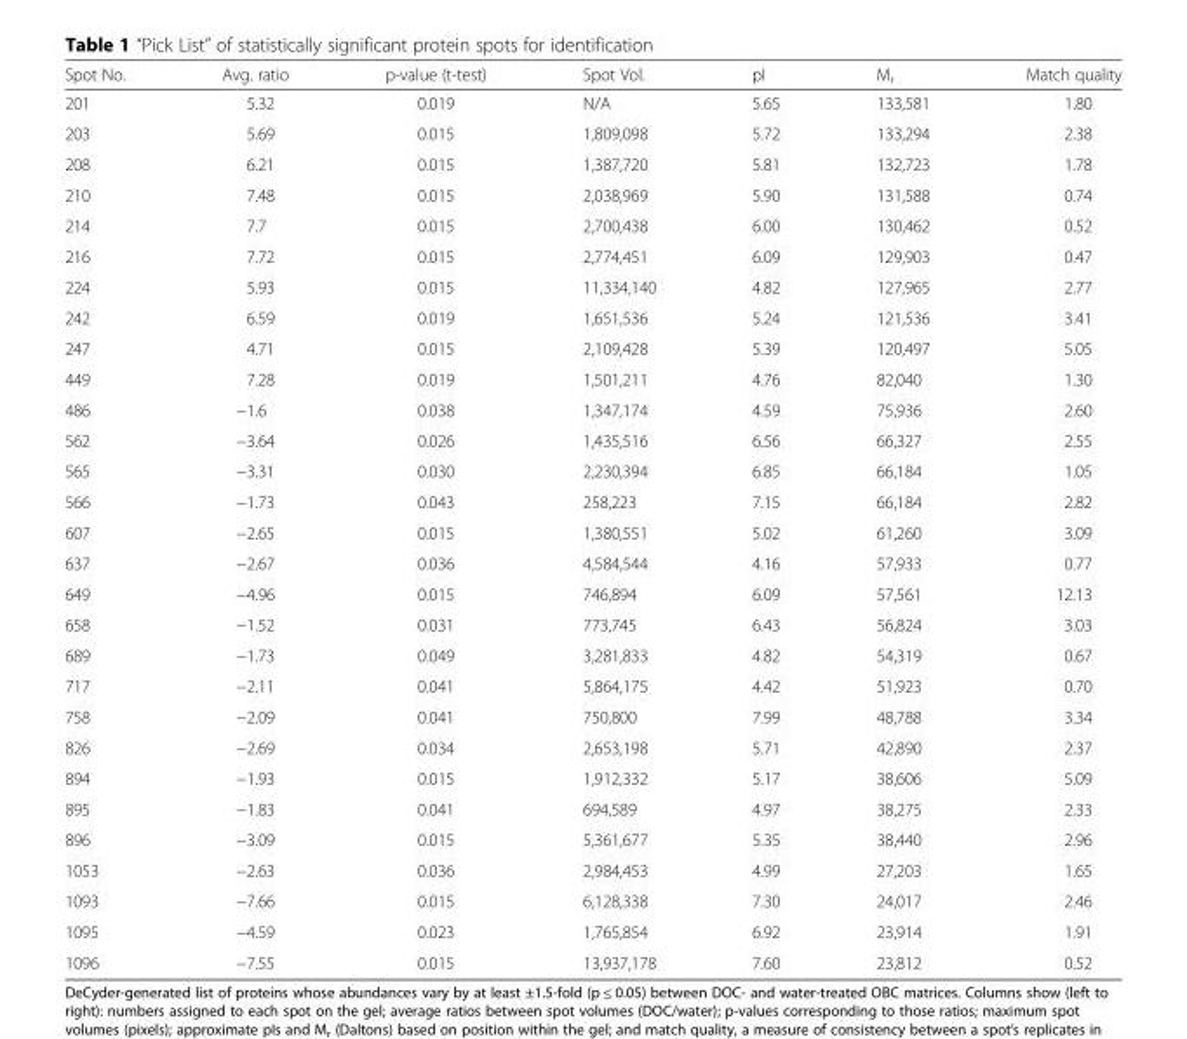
<table><thead><tr><td>Spot No.</td><td>Avg. ratio</td><td>p-value (t-test)</td><td>Spot Vol.</td><td>pI</td><td>M<sub>r</sub></td><td>Match quality</td></tr></thead><tbody><tr><td>201</td><td>5.32</td><td>0.019</td><td>N/A</td><td>5.65</td><td>133,581</td><td>1.80</td></tr><tr><td>203</td><td>5.69</td><td>0.015</td><td>1,809,098</td><td>5.72</td><td>133,294</td><td>2.38</td></tr><tr><td>208</td><td>6.21</td><td>0.015</td><td>1,387,720</td><td>5.81</td><td>132,723</td><td>1.78</td></tr><tr><td>210</td><td>7.48</td><td>0.015</td><td>2,038,969</td><td>5.90</td><td>131,588</td><td>0.74</td></tr><tr><td>214</td><td>7.7</td><td>0.015</td><td>2,700,438</td><td>6.00</td><td>130,462</td><td>0.52</td></tr><tr><td>216</td><td>7.72</td><td>0.015</td><td>2,774,451</td><td>6.09</td><td>129,903</td><td>0.47</td></tr><tr><td>224</td><td>5.93</td><td>0.015</td><td>11,334,140</td><td>4.82</td><td>127,965</td><td>2.77</td></tr><tr><td>242</td><td>6.59</td><td>0.019</td><td>1,651,536</td><td>5.24</td><td>121,536</td><td>3.41</td></tr><tr><td>247</td><td>4.71</td><td>0.015</td><td>2,109,428</td><td>5.39</td><td>120,497</td><td>5.05</td></tr><tr><td>449</td><td>7.28</td><td>0.019</td><td>1,501,211</td><td>4.76</td><td>82,040</td><td>1.30</td></tr><tr><td>486</td><td>−1.6</td><td>0.038</td><td>1,347,174</td><td>4.59</td><td>75,936</td><td>2.60</td></tr><tr><td>562</td><td>−3.64</td><td>0.026</td><td>1,435,516</td><td>6.56</td><td>66,327</td><td>2.55</td></tr><tr><td>565</td><td>−3.31</td><td>0.030</td><td>2,230,394</td><td>6.85</td><td>66,184</td><td>1.05</td></tr><tr><td>566</td><td>−1.73</td><td>0.043</td><td>258,223</td><td>7.15</td><td>66,184</td><td>2.82</td></tr><tr><td>607</td><td>−2.65</td><td>0.015</td><td>1,380,551</td><td>5.02</td><td>61,260</td><td>3.09</td></tr><tr><td>637</td><td>−2.67</td><td>0.036</td><td>4,584,544</td><td>4.16</td><td>57,933</td><td>0.77</td></tr><tr><td>649</td><td>−4.96</td><td>0.015</td><td>746,894</td><td>6.09</td><td>57,561</td><td>12.13</td></tr><tr><td>658</td><td>−1.52</td><td>0.031</td><td>773,745</td><td>6.43</td><td>56,824</td><td>3.03</td></tr><tr><td>689</td><td>−1.73</td><td>0.049</td><td>3,281,833</td><td>4.82</td><td>54,319</td><td>0.67</td></tr><tr><td>717</td><td>−2.11</td><td>0.041</td><td>5,864,175</td><td>4.42</td><td>51,923</td><td>0.70</td></tr><tr><td>758</td><td>−2.09</td><td>0.041</td><td>750,800</td><td>7.99</td><td>48,788</td><td>3.34</td></tr><tr><td>826</td><td>−2.69</td><td>0.034</td><td>2,653,198</td><td>5.71</td><td>42,890</td><td>2.37</td></tr><tr><td>894</td><td>−1.93</td><td>0.015</td><td>1,912,332</td><td>5.17</td><td>38,606</td><td>5.09</td></tr><tr><td>895</td><td>−1.83</td><td>0.041</td><td>694,589</td><td>4.97</td><td>38,275</td><td>2.33</td></tr><tr><td>896</td><td>−3.09</td><td>0.015</td><td>5,361,677</td><td>5.35</td><td>38,440</td><td>2.96</td></tr><tr><td>1053</td><td>−2.63</td><td>0.036</td><td>2,984,453</td><td>4.99</td><td>27,203</td><td>1.65</td></tr><tr><td>1093</td><td>−7.66</td><td>0.015</td><td>6,128,338</td><td>7.30</td><td>24,017</td><td>2.46</td></tr><tr><td>1095</td><td>−4.59</td><td>0.023</td><td>1,765,854</td><td>6.92</td><td>23,914</td><td>1.91</td></tr><tr><td>1096</td><td>−7.55</td><td>0.015</td><td>13,937,178</td><td>7.60</td><td>23,812</td><td>0.52</td></tr></tbody></table>